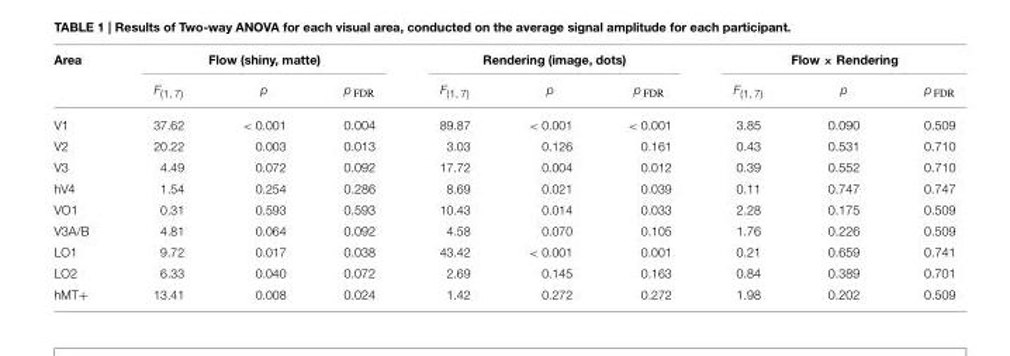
<table><thead><tr><td rowspan="2">Area</td><td colspan="3">Flow (shiny, matte)</td><td colspan="3">Rendering (image, dots)</td><td colspan="3">Flow × Rendering</td></tr><tr><td>F<sub>(1, 7)</sub></td><td>p</td><td>p <sub>FDR</sub></td><td>F<sub>(1, 7)</sub></td><td>p</td><td>p <sub>FDR</sub></td><td>F<sub>(1, 7)</sub></td><td>p</td><td>p <sub>FDR</sub></td></tr></thead><tbody><tr><td>V1</td><td>37.62</td><td>&lt; 0.001</td><td>0.004</td><td>89.87</td><td>&lt; 0.001</td><td>&lt; 0.001</td><td>3.85</td><td>0.090</td><td>0.509</td></tr><tr><td>V2</td><td>20.22</td><td>0.003</td><td>0.013</td><td>3.03</td><td>0.126</td><td>0.161</td><td>0.43</td><td>0.531</td><td>0.710</td></tr><tr><td>V3</td><td>4.49</td><td>0.072</td><td>0.092</td><td>17.72</td><td>0.004</td><td>0.012</td><td>0.39</td><td>0.552</td><td>0.710</td></tr><tr><td>hV4</td><td>1.54</td><td>0.254</td><td>0.286</td><td>8.69</td><td>0.021</td><td>0.039</td><td>0.11</td><td>0.747</td><td>0.747</td></tr><tr><td>VO1</td><td>0.31</td><td>0.593</td><td>0.593</td><td>10.43</td><td>0.014</td><td>0.033</td><td>2.28</td><td>0.175</td><td>0.509</td></tr><tr><td>V3A/B</td><td>4.81</td><td>0.064</td><td>0.092</td><td>4.58</td><td>0.070</td><td>0.105</td><td>1.76</td><td>0.226</td><td>0.509</td></tr><tr><td>LO1</td><td>9.72</td><td>0.017</td><td>0.038</td><td>43.42</td><td>&lt; 0.001</td><td>0.001</td><td>0.21</td><td>0.659</td><td>0.741</td></tr><tr><td>LO2</td><td>6.33</td><td>0.040</td><td>0.072</td><td>2.69</td><td>0.145</td><td>0.163</td><td>0.84</td><td>0.389</td><td>0.701</td></tr><tr><td>hMT+</td><td>13.41</td><td>0.008</td><td>0.024</td><td>1.42</td><td>0.272</td><td>0.272</td><td>1.98</td><td>0.202</td><td>0.509</td></tr></tbody></table>